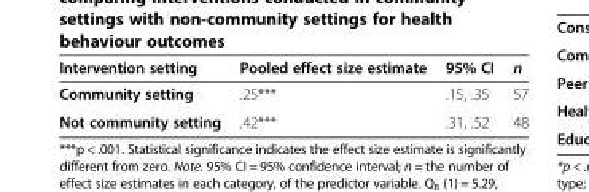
<table><thead><tr><td>Intervention setting</td><td>Pooled effect size estimate</td><td>95% CI</td><td>n</td></tr></thead><tbody><tr><td>Community setting</td><td>.25***</td><td>.15, .35</td><td>57</td></tr><tr><td>Not community setting</td><td>.42***</td><td>.31, .52</td><td>48</td></tr></tbody></table>